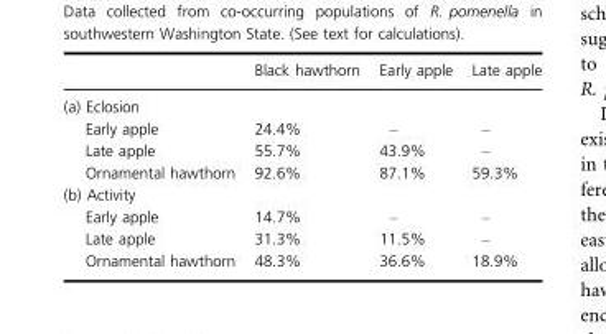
<table><thead><tr><td></td><td>Black hawthorn</td><td>Early apple</td><td>Late apple</td></tr></thead><tbody><tr><td colspan="4">(a) Eclosion</td></tr><tr><td>Early apple</td><td>24.4%</td><td>–</td><td>–</td></tr><tr><td>Late apple</td><td>55.7%</td><td>43.9%</td><td>–</td></tr><tr><td>Ornamental hawthorn</td><td>92.6%</td><td>87.1%</td><td>59.3%</td></tr><tr><td colspan="4">(b) Activity</td></tr><tr><td>Early apple</td><td>14.7%</td><td>–</td><td>–</td></tr><tr><td>Late apple</td><td>31.3%</td><td>11.5%</td><td>–</td></tr><tr><td>Ornamental hawthorn</td><td>48.3%</td><td>36.6%</td><td>18.9%</td></tr></tbody></table>